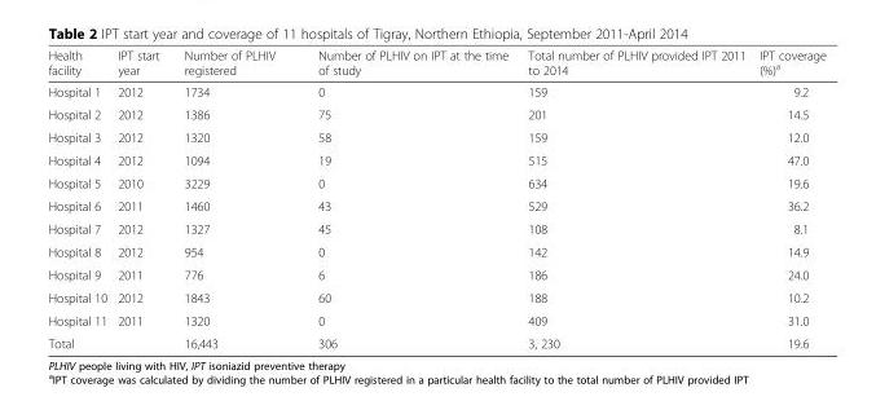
<table><thead><tr><td>Health facility</td><td>IPT start year</td><td>Number of PLHIV registered</td><td>Number of PLHIV on IPT at the time of study</td><td>Total number of PLHIV provided IPT 2011 to 2014</td><td>IPT coverage (%)<sup>a</sup></td></tr></thead><tbody><tr><td>Hospital 1</td><td>2012</td><td>1734</td><td>0</td><td>159</td><td>9.2</td></tr><tr><td>Hospital 2</td><td>2012</td><td>1386</td><td>75</td><td>201</td><td>14.5</td></tr><tr><td>Hospital 3</td><td>2012</td><td>1320</td><td>58</td><td>159</td><td>12.0</td></tr><tr><td>Hospital 4</td><td>2012</td><td>1094</td><td>19</td><td>515</td><td>47.0</td></tr><tr><td>Hospital 5</td><td>2010</td><td>3229</td><td>0</td><td>634</td><td>19.6</td></tr><tr><td>Hospital 6</td><td>2011</td><td>1460</td><td>43</td><td>529</td><td>36.2</td></tr><tr><td>Hospital 7</td><td>2012</td><td>1327</td><td>45</td><td>108</td><td>8.1</td></tr><tr><td>Hospital 8</td><td>2012</td><td>954</td><td>0</td><td>142</td><td>14.9</td></tr><tr><td>Hospital 9</td><td>2011</td><td>776</td><td>6</td><td>186</td><td>24.0</td></tr><tr><td>Hospital 10</td><td>2012</td><td>1843</td><td>60</td><td>188</td><td>10.2</td></tr><tr><td>Hospital 11</td><td>2011</td><td>1320</td><td>0</td><td>409</td><td>31.0</td></tr><tr><td>Total</td><td></td><td>16,443</td><td>306</td><td>3, 230</td><td>19.6</td></tr></tbody></table>